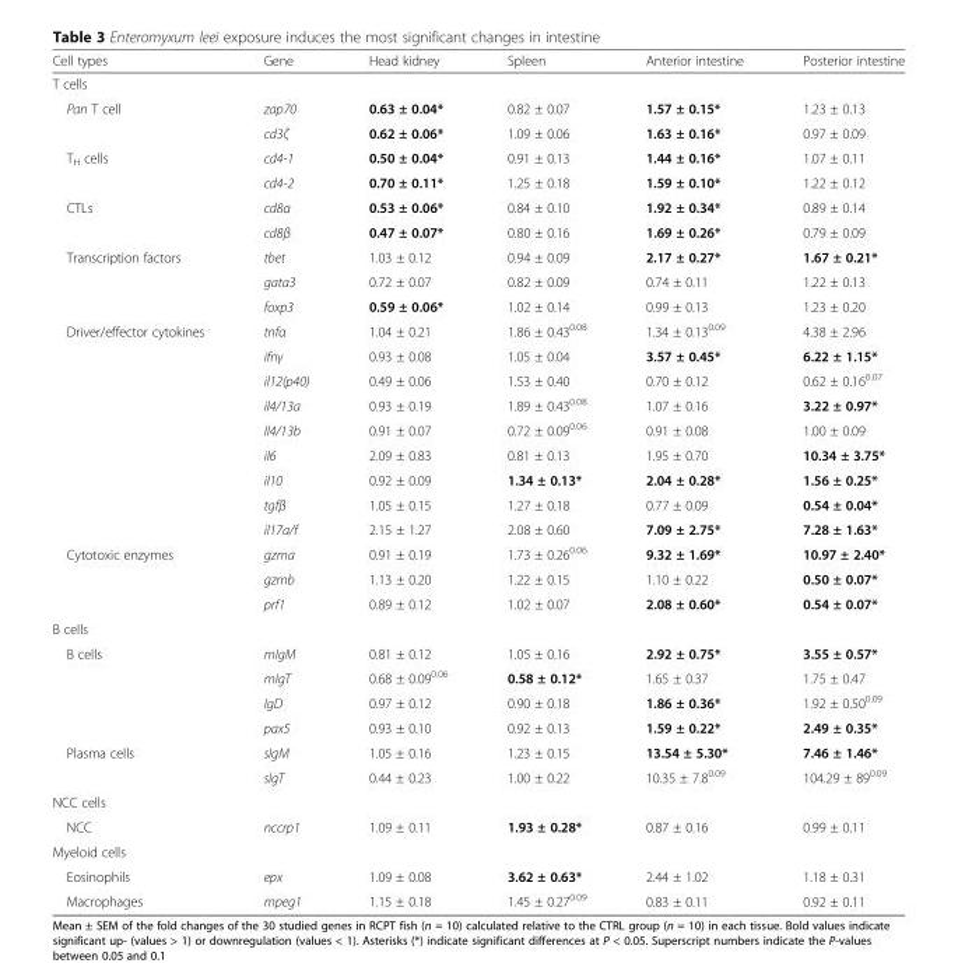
<table><thead><tr><td>Cell types</td><td>Gene</td><td>Head kidney</td><td>Spleen</td><td>Anterior intestine</td><td>Posterior intestine</td></tr></thead><tbody><tr><td colspan="6">T cells</td></tr><tr><td rowspan="2">Pan T cell</td><td>zap70</td><td>0.63 ± 0.04*</td><td>0.82 ± 0.07</td><td>1.57 ± 0.15*</td><td>1.23 ± 0.13</td></tr><tr><td>cd3ζ</td><td>0.62 ± 0.06*</td><td>1.09 ± 0.06</td><td>1.63 ± 0.16*</td><td>0.97 ± 0.09</td></tr><tr><td rowspan="2">T<sub>H</sub> cells</td><td>cd4-1</td><td>0.50 ± 0.04*</td><td>0.91 ± 0.13</td><td>1.44 ± 0.16*</td><td>1.07 ± 0.11</td></tr><tr><td>cd4-2</td><td>0.70 ± 0.11*</td><td>1.25 ± 0.18</td><td>1.59 ± 0.10*</td><td>1.22 ± 0.12</td></tr><tr><td rowspan="2">CTLs</td><td>cd8α</td><td>0.53 ± 0.06*</td><td>0.84 ± 0.10</td><td>1.92 ± 0.34*</td><td>0.89 ± 0.14</td></tr><tr><td>cd8β</td><td>0.47 ± 0.07*</td><td>0.80 ± 0.16</td><td>1.69 ± 0.26*</td><td>0.79 ± 0.09</td></tr><tr><td rowspan="3">Transcription factors</td><td>tbet</td><td>1.03 ± 0.12</td><td>0.94 ± 0.09</td><td>2.17 ± 0.27*</td><td>1.67 ± 0.21*</td></tr><tr><td>gata3</td><td>0.72 ± 0.07</td><td>0.82 ± 0.09</td><td>0.74 ± 0.11</td><td>1.22 ± 0.13</td></tr><tr><td>foxp3</td><td>0.59 ± 0.06*</td><td>1.02 ± 0.14</td><td>0.99 ± 0.13</td><td>1.23 ± 0.20</td></tr><tr><td rowspan="9">Driver/effector cytokines</td><td>tnfα</td><td>1.04 ± 0.21</td><td>1.86 ± 0.43<sup>0.08</sup></td><td>1.34 ± 0.13<sup>0.09</sup></td><td>4.38 ± 2.96</td></tr><tr><td>ifnγ</td><td>0.93 ± 0.08</td><td>1.05 ± 0.04</td><td>3.57 ± 0.45*</td><td>6.22 ± 1.15*</td></tr><tr><td>il12(p40)</td><td>0.49 ± 0.06</td><td>1.53 ± 0.40</td><td>0.70 ± 0.12</td><td>0.62 ± 0.16<sup>0.07</sup></td></tr><tr><td>il4/13a</td><td>0.93 ± 0.19</td><td>1.89 ± 0.43<sup>0.08</sup></td><td>1.07 ± 0.16</td><td>3.22 ± 0.97*</td></tr><tr><td>Il4/13b</td><td>0.91 ± 0.07</td><td>0.72 ± 0.09<sup>0.06</sup></td><td>0.91 ± 0.08</td><td>1.00 ± 0.09</td></tr><tr><td>il6</td><td>2.09 ± 0.83</td><td>0.81 ± 0.13</td><td>1.95 ± 0.70</td><td>10.34 ± 3.75*</td></tr><tr><td>il10</td><td>0.92 ± 0.09</td><td>1.34 ± 0.13*</td><td>2.04 ± 0.28*</td><td>1.56 ± 0.25*</td></tr><tr><td>tgfβ</td><td>1.05 ± 0.15</td><td>1.27 ± 0.18</td><td>0.77 ± 0.09</td><td>0.54 ± 0.04*</td></tr><tr><td>il17a/f</td><td>2.15 ± 1.27</td><td>2.08 ± 0.60</td><td>7.09 ± 2.75*</td><td>7.28 ± 1.63*</td></tr><tr><td rowspan="3">Cytotoxic enzymes</td><td>gzma</td><td>0.91 ± 0.19</td><td>1.73 ± 0.26<sup>0.06</sup></td><td>9.32 ± 1.69*</td><td>10.97 ± 2.40*</td></tr><tr><td>gzmb</td><td>1.13 ± 0.20</td><td>1.22 ± 0.15</td><td>1.10 ± 0.22</td><td>0.50 ± 0.07*</td></tr><tr><td>prf1</td><td>0.89 ± 0.12</td><td>1.02 ± 0.07</td><td>2.08 ± 0.60*</td><td>0.54 ± 0.07*</td></tr><tr><td colspan="6">B cells</td></tr><tr><td rowspan="4">B cells</td><td>mIgM</td><td>0.81 ± 0.12</td><td>1.05 ± 0.16</td><td>2.92 ± 0.75*</td><td>3.55 ± 0.57*</td></tr><tr><td>mIgT</td><td>0.68 ± 0.09<sup>0.06</sup></td><td>0.58 ± 0.12*</td><td>1.65 ± 0.37</td><td>1.75 ± 0.47</td></tr><tr><td>IgD</td><td>0.97 ± 0.12</td><td>0.90 ± 0.18</td><td>1.86 ± 0.36*</td><td>1.92 ± 0.50<sup>0.09</sup></td></tr><tr><td>pax5</td><td>0.93 ± 0.10</td><td>0.92 ± 0.13</td><td>1.59 ± 0.22*</td><td>2.49 ± 0.35*</td></tr><tr><td rowspan="2">Plasma cells</td><td>sIgM</td><td>1.05 ± 0.16</td><td>1.23 ± 0.15</td><td>13.54 ± 5.30*</td><td>7.46 ± 1.46*</td></tr><tr><td>sIgT</td><td>0.44 ± 0.23</td><td>1.00 ± 0.22</td><td>10.35 ± 7.8<sup>0.09</sup></td><td>104.29 ± 89<sup>0.09</sup></td></tr><tr><td colspan="6">NCC cells</td></tr><tr><td>NCC</td><td>nccrp1</td><td>1.09 ± 0.11</td><td>1.93 ± 0.28*</td><td>0.87 ± 0.16</td><td>0.99 ± 0.11</td></tr><tr><td colspan="6">Myeloid cells</td></tr><tr><td>Eosinophils</td><td>epx</td><td>1.09 ± 0.08</td><td>3.62 ± 0.63*</td><td>2.44 ± 1.02</td><td>1.18 ± 0.31</td></tr><tr><td>Macrophages</td><td>mpeg1</td><td>1.15 ± 0.18</td><td>1.45 ± 0.27<sup>0.09</sup></td><td>0.83 ± 0.11</td><td>0.92 ± 0.11</td></tr></tbody></table>